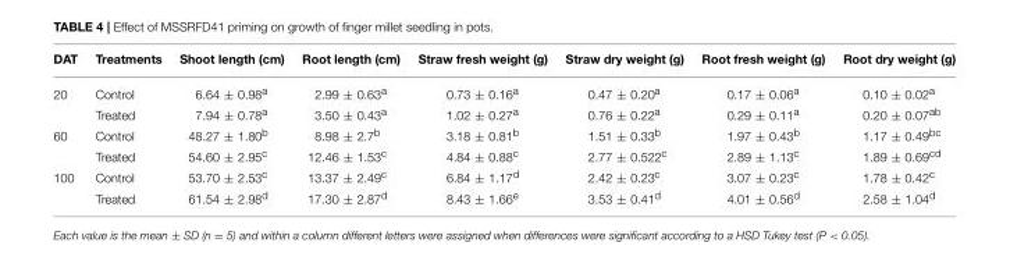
<table><thead><tr><td>DAT</td><td>Treatments</td><td>Shoot length (cm)</td><td>Root length (cm)</td><td>Straw fresh weight (g)</td><td>Straw dry weight (g)</td><td>Root fresh weight (g)</td><td>Root dry weight (g)</td></tr></thead><tbody><tr><td rowspan="2">20</td><td>Control</td><td>6.64 ± 0.98<sup>a</sup></td><td>2.99 ± 0.63<sup>a</sup></td><td>0.73 ± 0.16<sup>a</sup></td><td>0.47 ± 0.20<sup>a</sup></td><td>0.17 ± 0.06<sup>a</sup></td><td>0.10 ± 0.02<sup>a</sup></td></tr><tr><td>Treated</td><td>7.94 ± 0.78<sup>a</sup></td><td>3.50 ± 0.43<sup>a</sup></td><td>1.02 ± 0.27<sup>a</sup></td><td>0.76 ± 0.22<sup>a</sup></td><td>0.29 ± 0.11<sup>a</sup></td><td>0.20 ± 0.07<sup>ab</sup></td></tr><tr><td rowspan="2">60</td><td>Control</td><td>48.27 ± 1.80<sup>b</sup></td><td>8.98 ± 2.7<sup>b</sup></td><td>3.18 ± 0.81<sup>b</sup></td><td>1.51 ± 0.33<sup>b</sup></td><td>1.97 ± 0.43<sup>b</sup></td><td>1.17 ± 0.49<sup>bc</sup></td></tr><tr><td>Treated</td><td>54.60 ± 2.95<sup>c</sup></td><td>12.46 ± 1.53<sup>c</sup></td><td>4.84 ± 0.88<sup>c</sup></td><td>2.77 ± 0.522<sup>c</sup></td><td>2.89 ± 1.13<sup>c</sup></td><td>1.89 ± 0.69<sup>cd</sup></td></tr><tr><td rowspan="2">100</td><td>Control</td><td>53.70 ± 2.53<sup>c</sup></td><td>13.37 ± 2.49<sup>c</sup></td><td>6.84 ± 1.17<sup>d</sup></td><td>2.42 ± 0.23<sup>c</sup></td><td>3.07 ± 0.23<sup>c</sup></td><td>1.78 ± 0.42<sup>c</sup></td></tr><tr><td>Treated</td><td>61.54 ± 2.98<sup>d</sup></td><td>17.30 ± 2.87<sup>d</sup></td><td>8.43 ± 1.66<sup>e</sup></td><td>3.53 ± 0.41<sup>d</sup></td><td>4.01 ± 0.56<sup>d</sup></td><td>2.58 ± 1.04<sup>d</sup></td></tr></tbody></table>